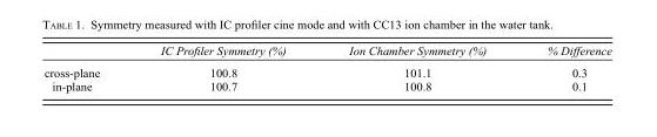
<table><thead><tr><td></td><td>IC Profiler Symmetry (%)</td><td>Ion Chamber Symmetry (%)</td><td>% Difference</td></tr></thead><tbody><tr><td>cross-plane</td><td>100.8</td><td>101.1</td><td>0.3</td></tr><tr><td>in-plane</td><td>100.7</td><td>100.8</td><td>0.1</td></tr></tbody></table>